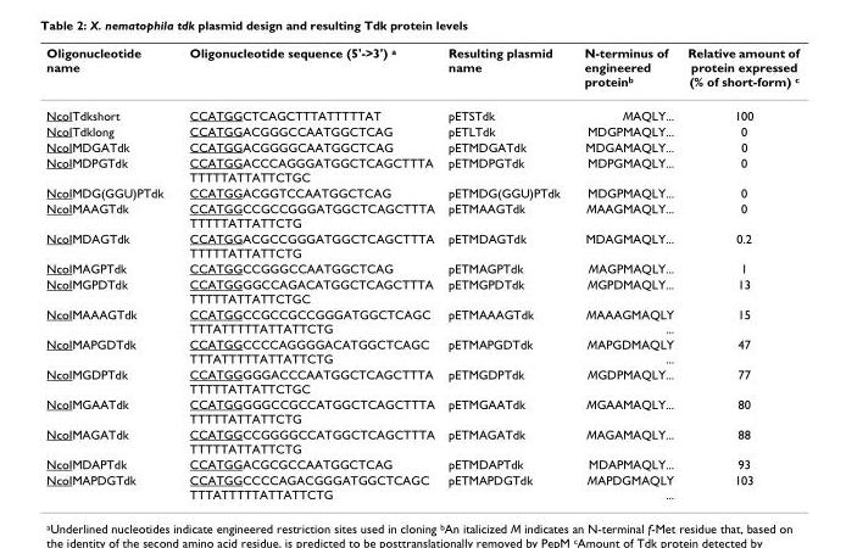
<table><thead><tr><td>Oligonucleotide name</td><td>Oligonucleotide sequence (5&#x27;-&gt;3&#x27;) <sup>a</sup></td><td>Resulting plasmid name</td><td>N-terminus of engineered protein<sup>b</sup></td><td>Relative amount of protein expressed (% of short-form) <sup>c</sup></td></tr></thead><tbody><tr><td>NcoITdkshort</td><td>CCATGGCTCAGCTTTATTTTTAT</td><td>pETSTdk</td><td>MAQLY...</td><td>100</td></tr><tr><td>NcoITdklong</td><td>CCATGGACGGGCCAATGGCTCAG</td><td>pETLTdk</td><td>MDGPMAQLY...</td><td>0</td></tr><tr><td>NcoIMDGATdk</td><td>CCATGGACGGGGCAATGGCTCAG</td><td>pETMDGATdk</td><td>MDGAMAQLY...</td><td>0</td></tr><tr><td>NcoIMDPGTdk</td><td>CCATGGACCCAGGGATGGCTCAGCTTTA TTTTTATTATTCTGC</td><td>pETMDPGTdk</td><td>MDPGMAQLY...</td><td>0</td></tr><tr><td>NcoIMDG(GGU)PTdk</td><td>CCATGGACGGTCCAATGGCTCAG</td><td>pETMDG(GGU)PTdk</td><td>MDGPMAQLY...</td><td>0</td></tr><tr><td>NcoIMAAGTdk</td><td>CCATGGCCGCCGGGATGGCTCAGCTTTA TTTTTATTATTCTG</td><td>pETMAAGTdk</td><td>MAAGMAQLY...</td><td>0</td></tr><tr><td>NcoIMDAGTdk</td><td>CCATGGACGCCGGGATGGCTCAGCTTTA TTTTTATTATTCTG</td><td>pETMDAGTdk</td><td>MDAGMAQLY...</td><td>0.2</td></tr><tr><td>NcoIMAGPTdk</td><td>CCATGGCCGGGCCAATGGCTCAG</td><td>pETMAGPTdk</td><td>MAGPMAQLY...</td><td>1</td></tr><tr><td>NcoIMGPDTdk</td><td>CCATGGGGCCAGACATGGCTCAGCTTTA TTTTTATTATTCTGC</td><td>pETMGPDTdk</td><td>MGPDMAQLY...</td><td>13</td></tr><tr><td>NcoIMAAAGTdk</td><td>CCATGGCCGCCGCCGGGATGGCTCAGC TTTATTTTTATTATTCTG</td><td>pETMAAAGTdk</td><td>MAAAGMAQLY ...</td><td>15</td></tr><tr><td>NcoIMAPGDTdk</td><td>CCATGGCCCCAGGGGACATGGCTCAGC TTTATTTTTATTATTCTG</td><td>pETMAPGDTdk</td><td>MAPGDMAQLY ...</td><td>47</td></tr><tr><td>NcoIMGDPTdk</td><td>CCATGGGGGACCCAATGGCTCAGCTTTA TTTTTATTATTCTGC</td><td>pETMGDPTdk</td><td>MGDPMAQLY...</td><td>77</td></tr><tr><td>NcoIMGAATdk</td><td>CCATGGGGGCCGCCATGGCTCAGCTTTA TTTTTATTATTCTG</td><td>pETMGAATdk</td><td>MGAAMAQLY...</td><td>80</td></tr><tr><td>NcoIMAGATdk</td><td>CCATGGCCGGGGCCATGGCTCAGCTTTA TTTTTATTATTCTG</td><td>pETMAGATdk</td><td>MAGAMAQLY...</td><td>88</td></tr><tr><td>NcoIMDAPTdk</td><td>CCATGGACGCGCCAATGGCTCAG</td><td>pETMDAPTdk</td><td>MDAPMAQLY...</td><td>93</td></tr><tr><td>NcoIMAPDGTdk</td><td>CCATGGCCCCAGACGGGATGGCTCAGC TTTATTTTTATTATTCTG</td><td>pETMAPDGTdk</td><td>MAPDGMAQLY ...</td><td>103</td></tr></tbody></table>